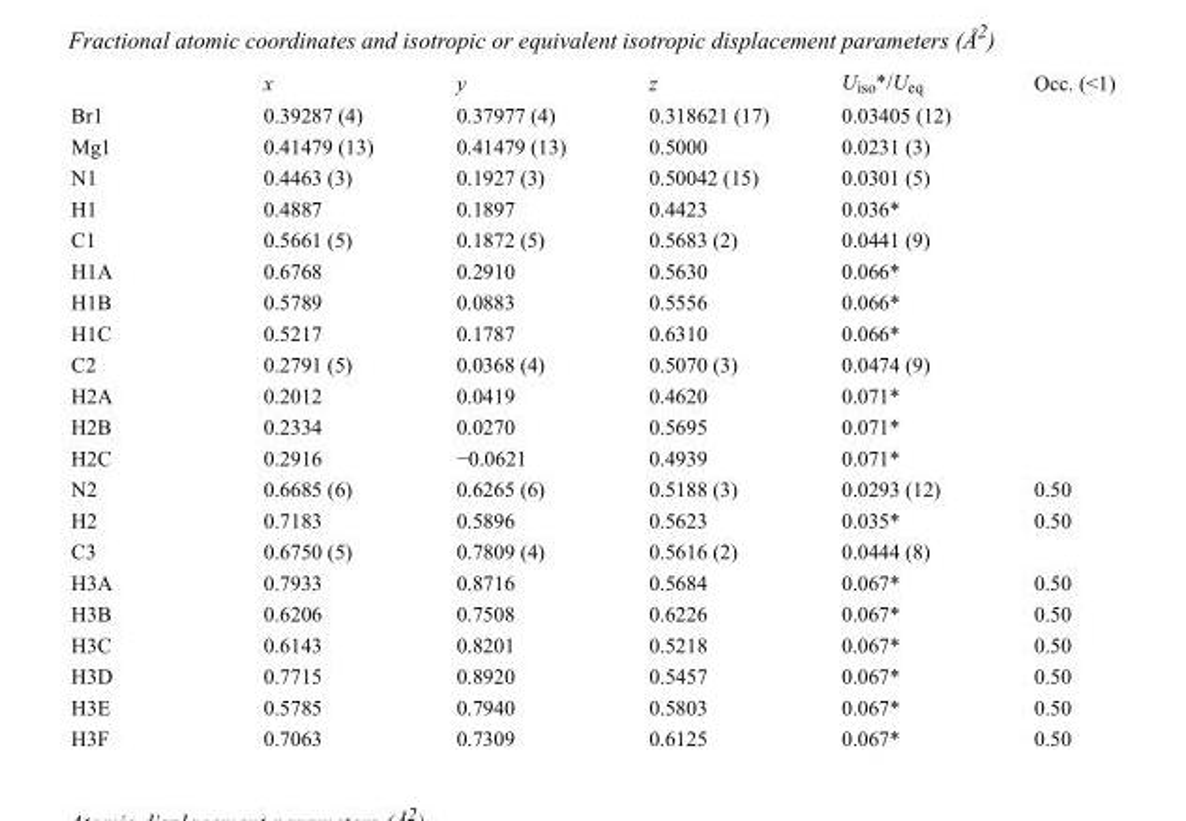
<table><thead><tr><td></td><td>x</td><td>y</td><td>z</td><td>U<sub>iso</sub>*/U<sub>eq</sub></td><td>Occ. (&lt;1)</td></tr></thead><tbody><tr><td>Br1</td><td>0.39287 (4)</td><td>0.37977 (4)</td><td>0.318621 (17)</td><td>0.03405 (12)</td><td></td></tr><tr><td>Mg1</td><td>0.41479 (13)</td><td>0.41479 (13)</td><td>0.5000</td><td>0.0231 (3)</td><td></td></tr><tr><td>N1</td><td>0.4463 (3)</td><td>0.1927 (3)</td><td>0.50042 (15)</td><td>0.0301 (5)</td><td></td></tr><tr><td>H1</td><td>0.4887</td><td>0.1897</td><td>0.4423</td><td>0.036*</td><td></td></tr><tr><td>C1</td><td>0.5661 (5)</td><td>0.1872 (5)</td><td>0.5683 (2)</td><td>0.0441 (9)</td><td></td></tr><tr><td>H1A</td><td>0.6768</td><td>0.2910</td><td>0.5630</td><td>0.066*</td><td></td></tr><tr><td>H1B</td><td>0.5789</td><td>0.0883</td><td>0.5556</td><td>0.066*</td><td></td></tr><tr><td>H1C</td><td>0.5217</td><td>0.1787</td><td>0.6310</td><td>0.066*</td><td></td></tr><tr><td>C2</td><td>0.2791 (5)</td><td>0.0368 (4)</td><td>0.5070 (3)</td><td>0.0474 (9)</td><td></td></tr><tr><td>H2A</td><td>0.2012</td><td>0.0419</td><td>0.4620</td><td>0.071*</td><td></td></tr><tr><td>H2B</td><td>0.2334</td><td>0.0270</td><td>0.5695</td><td>0.071*</td><td></td></tr><tr><td>H2C</td><td>0.2916</td><td>−0.0621</td><td>0.4939</td><td>0.071*</td><td></td></tr><tr><td>N2</td><td>0.6685 (6)</td><td>0.6265 (6)</td><td>0.5188 (3)</td><td>0.0293 (12)</td><td>0.50</td></tr><tr><td>H2</td><td>0.7183</td><td>0.5896</td><td>0.5623</td><td>0.035*</td><td>0.50</td></tr><tr><td>C3</td><td>0.6750 (5)</td><td>0.7809 (4)</td><td>0.5616 (2)</td><td>0.0444 (8)</td><td></td></tr><tr><td>H3A</td><td>0.7933</td><td>0.8716</td><td>0.5684</td><td>0.067*</td><td>0.50</td></tr><tr><td>H3B</td><td>0.6206</td><td>0.7508</td><td>0.6226</td><td>0.067*</td><td>0.50</td></tr><tr><td>H3C</td><td>0.6143</td><td>0.8201</td><td>0.5218</td><td>0.067*</td><td>0.50</td></tr><tr><td>H3D</td><td>0.7715</td><td>0.8920</td><td>0.5457</td><td>0.067*</td><td>0.50</td></tr><tr><td>H3E</td><td>0.5785</td><td>0.7940</td><td>0.5803</td><td>0.067*</td><td>0.50</td></tr><tr><td>H3F</td><td>0.7063</td><td>0.7309</td><td>0.6125</td><td>0.067*</td><td>0.50</td></tr></tbody></table>